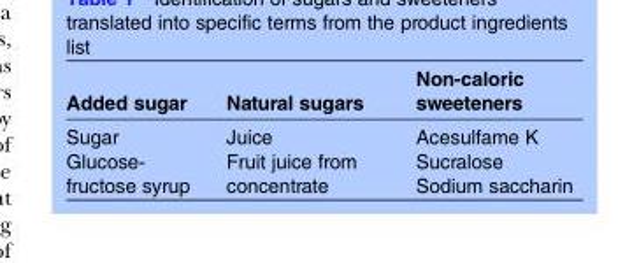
<table><thead><tr><td>Added sugar</td><td>Natural sugars</td><td>Non-caloric sweeteners</td></tr></thead><tbody><tr><td>Sugar</td><td>Juice</td><td>Acesulfame K</td></tr><tr><td rowspan="2">Glucose- fructose syrup</td><td rowspan="2">Fruit juice from concentrate</td><td>Sucralose</td></tr><tr><td>Sodium saccharin</td></tr></tbody></table>